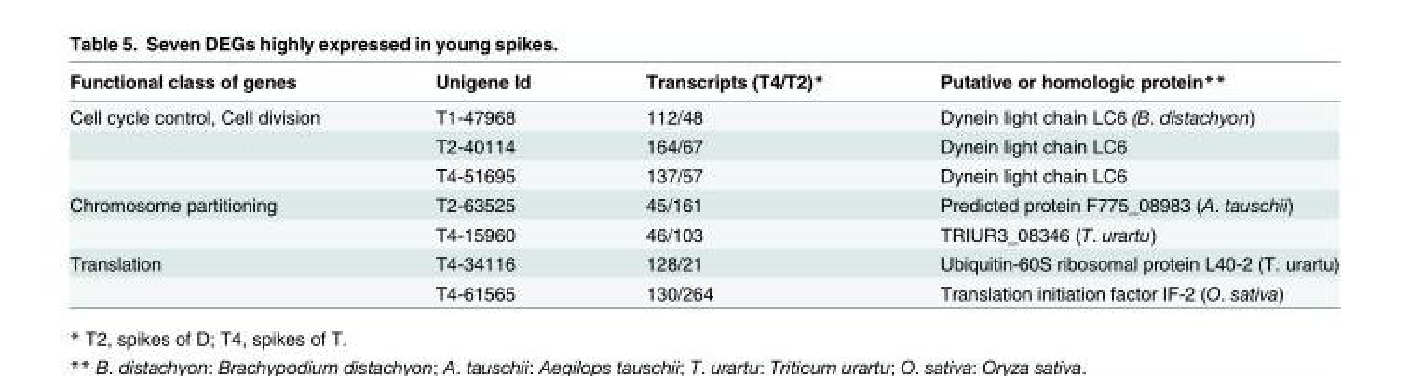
<table><thead><tr><td>Functional class of genes</td><td>Unigene Id</td><td>Transcripts (T4/T2)*</td><td>Putative or homologic protein**</td></tr></thead><tbody><tr><td rowspan="3">Cell cycle control, Cell division</td><td>T1-47968</td><td>112/48</td><td>Dynein light chain LC6 (B. distachyon)</td></tr><tr><td>T2-40114</td><td>164/67</td><td>Dynein light chain LC6</td></tr><tr><td>T4-51695</td><td>137/57</td><td>Dynein light chain LC6</td></tr><tr><td rowspan="2">Chromosome partitioning</td><td>T2-63525</td><td>45/161</td><td>Predicted protein F775_08983 (A. tauschii)</td></tr><tr><td>T4-15960</td><td>46/103</td><td>TRIUR3_08346 (T. urartu)</td></tr><tr><td rowspan="2">Translation</td><td>T4-34116</td><td>128/21</td><td>Ubiquitin-60S ribosomal protein L40-2 (T. urartu)</td></tr><tr><td>T4-61565</td><td>130/264</td><td>Translation initiation factor IF-2 (O. sativa)</td></tr></tbody></table>